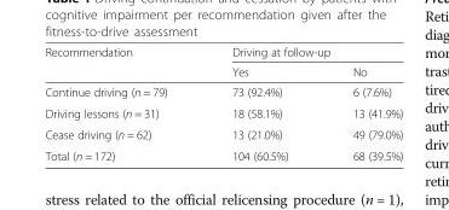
<table><thead><tr><td rowspan="2">Recommendation</td><td colspan="2">Driving at follow-up</td></tr><tr><td>Yes</td><td>No</td></tr></thead><tbody><tr><td>Continue driving (n = 79)</td><td>73 (92.4%)</td><td>6 (7.6%)</td></tr><tr><td>Driving lessons (n = 31)</td><td>18 (58.1%)</td><td>13 (41.9%)</td></tr><tr><td>Cease driving (n = 62)</td><td>13 (21.0%)</td><td>49 (79.0%)</td></tr><tr><td>Total (n = 172)</td><td>104 (60.5%)</td><td>68 (39.5%)</td></tr></tbody></table>